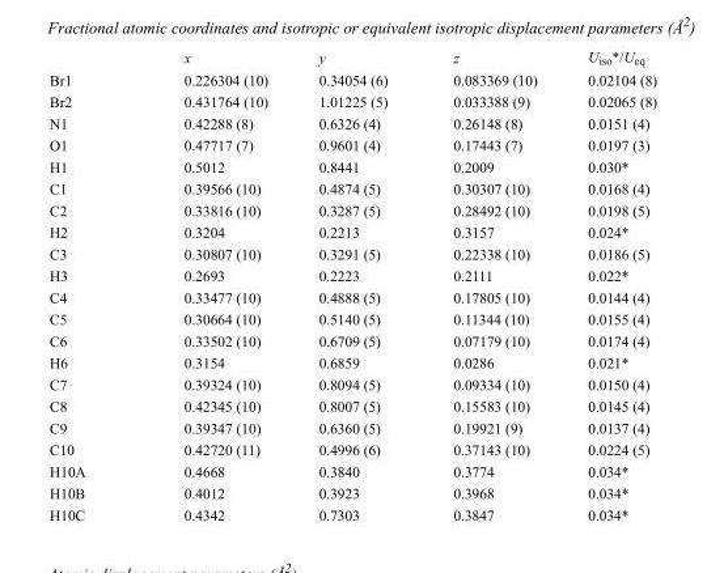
<table><thead><tr><td></td><td>x</td><td>y</td><td>z</td><td>U<sub>iso</sub>*/U<sub>eq</sub></td></tr></thead><tbody><tr><td>Br1</td><td>0.226304 (10)</td><td>0.34054 (6)</td><td>0.083369 (10)</td><td>0.02104 (8)</td></tr><tr><td>Br2</td><td>0.431764 (10)</td><td>1.01225 (5)</td><td>0.033388 (9)</td><td>0.02065 (8)</td></tr><tr><td>N1</td><td>0.42288 (8)</td><td>0.6326 (4)</td><td>0.26148 (8)</td><td>0.0151 (4)</td></tr><tr><td>O1</td><td>0.47717 (7)</td><td>0.9601 (4)</td><td>0.17443 (7)</td><td>0.0197 (3)</td></tr><tr><td>H1</td><td>0.5012</td><td>0.8441</td><td>0.2009</td><td>0.030*</td></tr><tr><td>C1</td><td>0.39566 (10)</td><td>0.4874 (5)</td><td>0.30307 (10)</td><td>0.0168 (4)</td></tr><tr><td>C2</td><td>0.33816 (10)</td><td>0.3287 (5)</td><td>0.28492 (10)</td><td>0.0198 (5)</td></tr><tr><td>H2</td><td>0.3204</td><td>0.2213</td><td>0.3157</td><td>0.024*</td></tr><tr><td>C3</td><td>0.30807 (10)</td><td>0.3291 (5)</td><td>0.22338 (10)</td><td>0.0186 (5)</td></tr><tr><td>H3</td><td>0.2693</td><td>0.2223</td><td>0.2111</td><td>0.022*</td></tr><tr><td>C4</td><td>0.33477 (10)</td><td>0.4888 (5)</td><td>0.17805 (10)</td><td>0.0144 (4)</td></tr><tr><td>C5</td><td>0.30664 (10)</td><td>0.5140 (5)</td><td>0.11344 (10)</td><td>0.0155 (4)</td></tr><tr><td>C6</td><td>0.33502 (10)</td><td>0.6709 (5)</td><td>0.07179 (10)</td><td>0.0174 (4)</td></tr><tr><td>H6</td><td>0.3154</td><td>0.6859</td><td>0.0286</td><td>0.021*</td></tr><tr><td>C7</td><td>0.39324 (10)</td><td>0.8094 (5)</td><td>0.09334 (10)</td><td>0.0150 (4)</td></tr><tr><td>C8</td><td>0.42345 (10)</td><td>0.8007 (5)</td><td>0.15583 (10)</td><td>0.0145 (4)</td></tr><tr><td>C9</td><td>0.39347 (10)</td><td>0.6360 (5)</td><td>0.19921 (9)</td><td>0.0137 (4)</td></tr><tr><td>C10</td><td>0.42720 (11)</td><td>0.4996 (6)</td><td>0.37143 (10)</td><td>0.0224 (5)</td></tr><tr><td>H10A</td><td>0.4668</td><td>0.3840</td><td>0.3774</td><td>0.034*</td></tr><tr><td>H10B</td><td>0.4012</td><td>0.3923</td><td>0.3968</td><td>0.034*</td></tr><tr><td>H10C</td><td>0.4342</td><td>0.7303</td><td>0.3847</td><td>0.034*</td></tr></tbody></table>